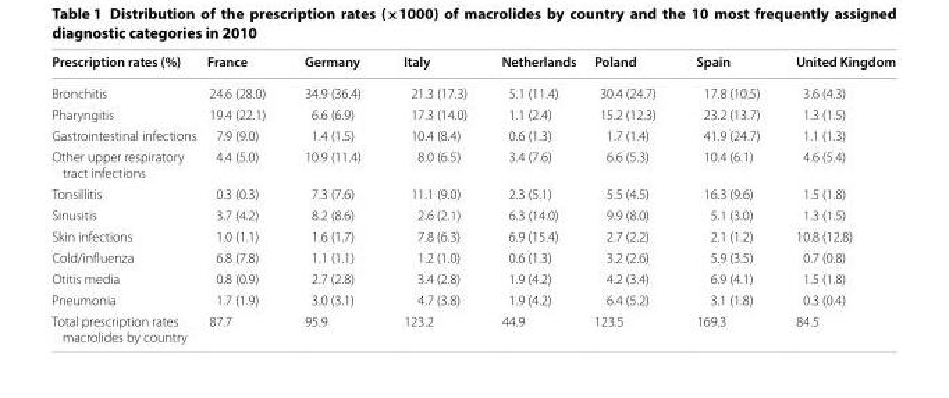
<table><thead><tr><td>Prescription rates (%)</td><td>France</td><td>Germany</td><td>Italy</td><td>Netherlands</td><td>Poland</td><td>Spain</td><td>United Kingdom</td></tr></thead><tbody><tr><td>Bronchitis</td><td>24.6 (28.0)</td><td>34.9 (36.4)</td><td>21.3 (17.3)</td><td>5.1 (11.4)</td><td>30.4 (24.7)</td><td>17.8 (10.5)</td><td>3.6 (4.3)</td></tr><tr><td>Pharyngitis</td><td>19.4 (22.1)</td><td>6.6 (6.9)</td><td>17.3 (14.0)</td><td>1.1 (2.4)</td><td>15.2 (12.3)</td><td>23.2 (13.7)</td><td>1.3 (1.5)</td></tr><tr><td>Gastrointestinal infections</td><td>7.9 (9.0)</td><td>1.4 (1.5)</td><td>10.4 (8.4)</td><td>0.6 (1.3)</td><td>1.7 (1.4)</td><td>41.9 (24.7)</td><td>1.1 (1.3)</td></tr><tr><td>Other upper respiratory tract infections</td><td>4.4 (5.0)</td><td>10.9 (11.4)</td><td>8.0 (6.5)</td><td>3.4 (7.6)</td><td>6.6 (5.3)</td><td>10.4 (6.1)</td><td>4.6 (5.4)</td></tr><tr><td>Tonsillitis</td><td>0.3 (0.3)</td><td>7.3 (7.6)</td><td>11.1 (9.0)</td><td>2.3 (5.1)</td><td>5.5 (4.5)</td><td>16.3 (9.6)</td><td>1.5 (1.8)</td></tr><tr><td>Sinusitis</td><td>3.7 (4.2)</td><td>8.2 (8.6)</td><td>2.6 (2.1)</td><td>6.3 (14.0)</td><td>9.9 (8.0)</td><td>5.1 (3.0)</td><td>1.3 (1.5)</td></tr><tr><td>Skin infections</td><td>1.0 (1.1)</td><td>1.6 (1.7)</td><td>7.8 (6.3)</td><td>6.9 (15.4)</td><td>2.7 (2.2)</td><td>2.1 (1.2)</td><td>10.8 (12.8)</td></tr><tr><td>Cold/influenza</td><td>6.8 (7.8)</td><td>1.1 (1.1)</td><td>1.2 (1.0)</td><td>0.6 (1.3)</td><td>3.2 (2.6)</td><td>5.9 (3.5)</td><td>0.7 (0.8)</td></tr><tr><td>Otitis media</td><td>0.8 (0.9)</td><td>2.7 (2.8)</td><td>3.4 (2.8)</td><td>1.9 (4.2)</td><td>4.2 (3.4)</td><td>6.9 (4.1)</td><td>1.5 (1.8)</td></tr><tr><td>Pneumonia</td><td>1.7 (1.9)</td><td>3.0 (3.1)</td><td>4.7 (3.8)</td><td>1.9 (4.2)</td><td>6.4 (5.2)</td><td>3.1 (1.8)</td><td>0.3 (0.4)</td></tr><tr><td>Total prescription rates macrolides by country</td><td>87.7</td><td>95.9</td><td>123.2</td><td>44.9</td><td>123.5</td><td>169.3</td><td>84.5</td></tr></tbody></table>